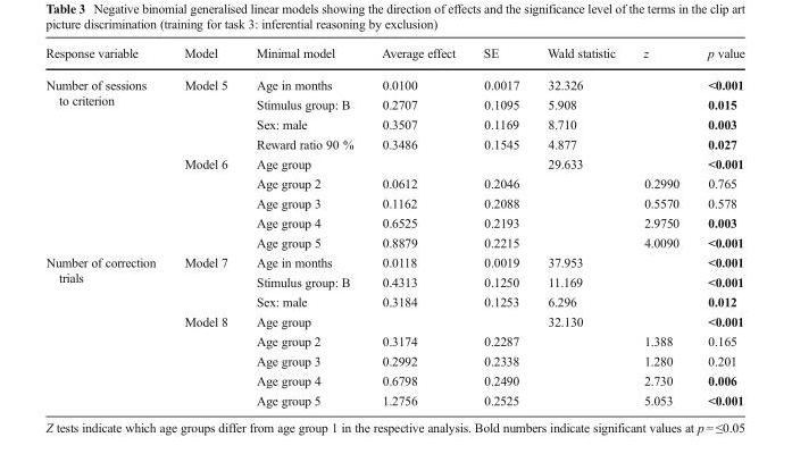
<table><thead><tr><td>Response variable</td><td>Model</td><td>Minimal model</td><td>Average effect</td><td>SE</td><td>Wald statistic</td><td>z</td><td>p value</td></tr></thead><tbody><tr><td rowspan="9">Number of sessions to criterion</td><td rowspan="4">Model 5</td><td>Age in months</td><td>0.0100</td><td>0.0017</td><td>32.326</td><td></td><td>&lt;0.001</td></tr><tr><td>Stimulus group: B</td><td>0.2707</td><td>0.1095</td><td>5.908</td><td></td><td>0.015</td></tr><tr><td>Sex: male</td><td>0.3507</td><td>0.1169</td><td>8.710</td><td></td><td>0.003</td></tr><tr><td>Reward ratio 90 %</td><td>0.3486</td><td>0.1545</td><td>4.877</td><td></td><td>0.027</td></tr><tr><td rowspan="5">Model 6</td><td>Age group</td><td></td><td></td><td>29.633</td><td></td><td>&lt;0.001</td></tr><tr><td>Age group 2</td><td>0.0612</td><td>0.2046</td><td></td><td>0.2990</td><td>0.765</td></tr><tr><td>Age group 3</td><td>0.1162</td><td>0.2088</td><td></td><td>0.5570</td><td>0.578</td></tr><tr><td>Age group 4</td><td>0.6525</td><td>0.2193</td><td></td><td>2.9750</td><td>0.003</td></tr><tr><td>Age group 5</td><td>0.8879</td><td>0.2215</td><td></td><td>4.0090</td><td>&lt;0.001</td></tr><tr><td rowspan="8">Number of correction trials</td><td rowspan="3">Model 7</td><td>Age in months</td><td>0.0118</td><td>0.0019</td><td>37.953</td><td></td><td>&lt;0.001</td></tr><tr><td>Stimulus group: B</td><td>0.4313</td><td>0.1250</td><td>11.169</td><td></td><td>&lt;0.001</td></tr><tr><td>Sex: male</td><td>0.3184</td><td>0.1253</td><td>6.296</td><td></td><td>0.012</td></tr><tr><td rowspan="5">Model 8</td><td>Age group</td><td></td><td></td><td>32.130</td><td></td><td>&lt;0.001</td></tr><tr><td>Age group 2</td><td>0.3174</td><td>0.2287</td><td></td><td>1.388</td><td>0.165</td></tr><tr><td>Age group 3</td><td>0.2992</td><td>0.2338</td><td></td><td>1.280</td><td>0.201</td></tr><tr><td>Age group 4</td><td>0.6798</td><td>0.2490</td><td></td><td>2.730</td><td>0.006</td></tr><tr><td>Age group 5</td><td>1.2756</td><td>0.2525</td><td></td><td>5.053</td><td>&lt;0.001</td></tr></tbody></table>